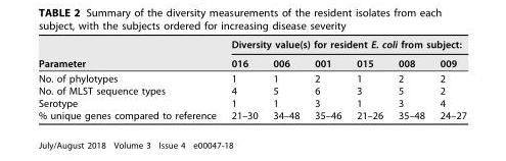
<table><thead><tr><td rowspan="2">Parameter</td><td colspan="6">Diversity value(s) for resident E. coli from subject:</td></tr><tr><td>016</td><td>006</td><td>001</td><td>015</td><td>008</td><td>009</td></tr></thead><tbody><tr><td>No. of phylotypes</td><td>1</td><td>1</td><td>2</td><td>1</td><td>2</td><td>2</td></tr><tr><td>No. of MLST sequence types</td><td>4</td><td>5</td><td>6</td><td>3</td><td>5</td><td>2</td></tr><tr><td>Serotype</td><td>1</td><td>1</td><td>3</td><td>1</td><td>3</td><td>4</td></tr><tr><td>% unique genes compared to reference</td><td>21–30</td><td>34–48</td><td>35–46</td><td>21–26</td><td>35–48</td><td>24–27</td></tr></tbody></table>